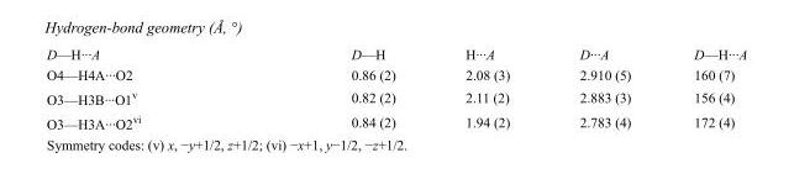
<table><tbody><tr><td>D—H···A</td><td>D—H</td><td>H···A</td><td>D···A</td><td>D—H···A</td></tr><tr><td>O4—H4A···O2</td><td>0.86 (2)</td><td>2.08 (3)</td><td>2.910 (5)</td><td>160 (7)</td></tr><tr><td>O3—H3B···O1<sup>v</sup></td><td>0.82 (2)</td><td>2.11 (2)</td><td>2.883 (3)</td><td>156 (4)</td></tr><tr><td>O3—H3A···O2<sup>vi</sup></td><td>0.84 (2)</td><td>1.94 (2)</td><td>2.783 (4)</td><td>172 (4)</td></tr></tbody></table>